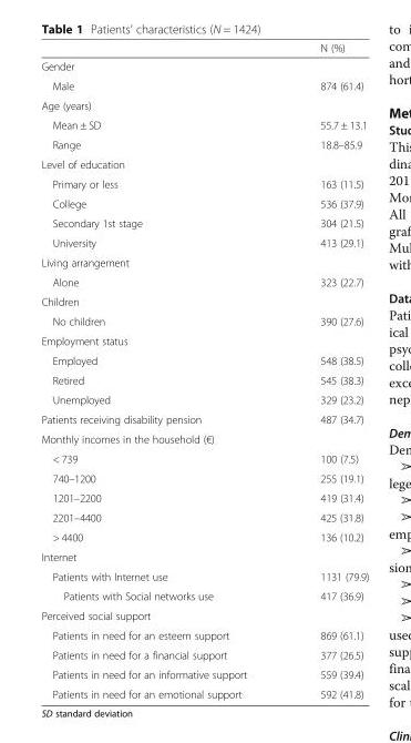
<table><thead><tr><td></td><td>N (%)</td></tr></thead><tbody><tr><td colspan="2">Gender</td></tr><tr><td>Male</td><td>874 (61.4)</td></tr><tr><td colspan="2">Age (years)</td></tr><tr><td>Mean ± SD</td><td>55.7 ± 13.1</td></tr><tr><td>Range</td><td>18.8–85.9</td></tr><tr><td colspan="2">Level of education</td></tr><tr><td>Primary or less</td><td>163 (11.5)</td></tr><tr><td>College</td><td>536 (37.9)</td></tr><tr><td>Secondary 1st stage</td><td>304 (21.5)</td></tr><tr><td>University</td><td>413 (29.1)</td></tr><tr><td colspan="2">Living arrangement</td></tr><tr><td>Alone</td><td>323 (22.7)</td></tr><tr><td colspan="2">Children</td></tr><tr><td>No children</td><td>390 (27.6)</td></tr><tr><td colspan="2">Employment status</td></tr><tr><td>Employed</td><td>548 (38.5)</td></tr><tr><td>Retired</td><td>545 (38.3)</td></tr><tr><td>Unemployed</td><td>329 (23.2)</td></tr><tr><td>Patients receiving disability pension</td><td>487 (34.7)</td></tr><tr><td colspan="2">Monthly incomes in the household (€)</td></tr><tr><td>&lt; 739</td><td>100 (7.5)</td></tr><tr><td>740–1200</td><td>255 (19.1)</td></tr><tr><td>1201–2200</td><td>419 (31.4)</td></tr><tr><td>2201–4400</td><td>425 (31.8)</td></tr><tr><td>&gt; 4400</td><td>136 (10.2)</td></tr><tr><td colspan="2">Internet</td></tr><tr><td>Patients with Internet use</td><td>1131 (79.9)</td></tr><tr><td>Patients with Social networks use</td><td>417 (36.9)</td></tr><tr><td colspan="2">Perceived social support</td></tr><tr><td>Patients in need for an esteem support</td><td>869 (61.1)</td></tr><tr><td>Patients in need for a financial support</td><td>377 (26.5)</td></tr><tr><td>Patients in need for an informative support</td><td>559 (39.4)</td></tr><tr><td>Patients in need for an emotional support</td><td>592 (41.8)</td></tr></tbody></table>